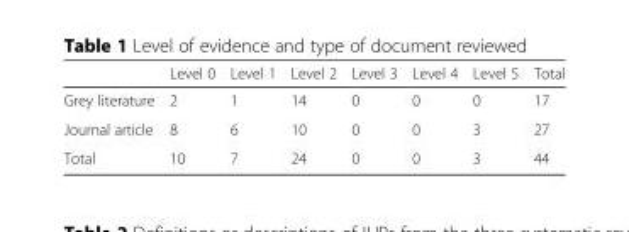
<table><thead><tr><td></td><td>Level 0</td><td>Level 1</td><td>Level 2</td><td>Level 3</td><td>Level 4</td><td>Level 5</td><td>Total</td></tr></thead><tbody><tr><td>Grey literature</td><td>2</td><td>1</td><td>14</td><td>0</td><td>0</td><td>0</td><td>17</td></tr><tr><td>Journal article</td><td>8</td><td>6</td><td>10</td><td>0</td><td>0</td><td>3</td><td>27</td></tr><tr><td>Total</td><td>10</td><td>7</td><td>24</td><td>0</td><td>0</td><td>3</td><td>44</td></tr></tbody></table>